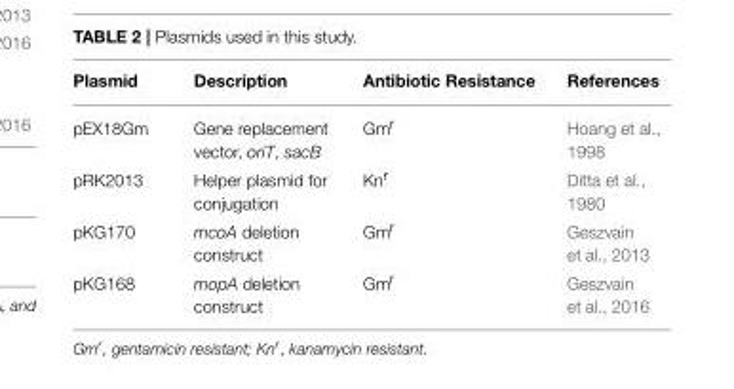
<table><thead><tr><td>Plasmid</td><td>Description</td><td>Antibiotic Resistance</td><td>References</td></tr></thead><tbody><tr><td>pEX18Gm</td><td>Gene replacement vector, oriT, sacB</td><td>Gm<sup>r</sup></td><td>Hoang et al., 1998</td></tr><tr><td>pRK2013</td><td>Helper plasmid for conjugation</td><td>Kn<sup>r</sup></td><td>Ditta et al., 1980</td></tr><tr><td>pKG170</td><td>mcoA deletion construct</td><td>Gm<sup>r</sup></td><td>Geszvain et al., 2013</td></tr><tr><td>pKG168</td><td>mopA deletion construct</td><td>Gm<sup>r</sup></td><td>Geszvain et al., 2016</td></tr></tbody></table>